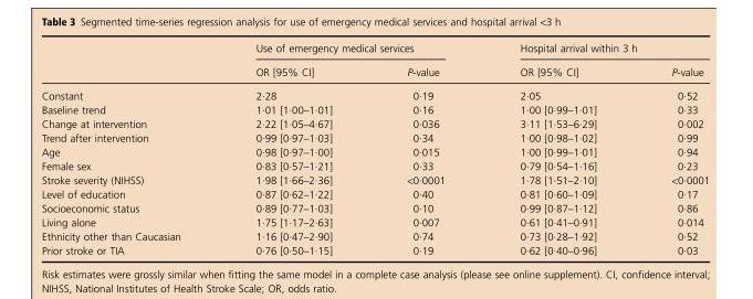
<table><thead><tr><td rowspan="2"></td><td colspan="2">Use of emergency medical services</td><td colspan="2">Hospital arrival within 3 h</td></tr><tr><td>OR [95% CI]</td><td>P-value</td><td>OR [95% CI]</td><td>P-value</td></tr></thead><tbody><tr><td>Constant</td><td>2·28</td><td>0·19</td><td>2·05</td><td>0·52</td></tr><tr><td>Baseline trend</td><td>1·01 [1·00–1·01]</td><td>0·16</td><td>1·00 [0·99–1·01]</td><td>0·33</td></tr><tr><td>Change at intervention</td><td>2·22 [1·05–4·67]</td><td>0·036</td><td>3·11 [1·53–6·29]</td><td>0·002</td></tr><tr><td>Trend after intervention</td><td>0·99 [0·97–1·03]</td><td>0·34</td><td>1·00 [0·98–1·02]</td><td>0·99</td></tr><tr><td>Age</td><td>0·98 [0·97–1·00]</td><td>0·015</td><td>1·00 [0·99–1·01]</td><td>0·94</td></tr><tr><td>Female sex</td><td>0·83 [0·57–1·21]</td><td>0·33</td><td>0·79 [0·54–1·16]</td><td>0·23</td></tr><tr><td>Stroke severity (NIHSS)</td><td>1·98 [1·66–2·36]</td><td>&lt;0·0001</td><td>1·78 [1·51–2·10]</td><td>&lt;0·0001</td></tr><tr><td>Level of education</td><td>0·87 [0·62–1·22]</td><td>0·40</td><td>0·81 [0·60–1·09]</td><td>0·17</td></tr><tr><td>Socioeconomic status</td><td>0·89 [0·77–1·03]</td><td>0·10</td><td>0·99 [0·87–1·12]</td><td>0·86</td></tr><tr><td>Living alone</td><td>1·75 [1·17–2·63]</td><td>0·007</td><td>0·61 [0·41–0·91]</td><td>0·014</td></tr><tr><td>Ethnicity other than Caucasian</td><td>1·16 [0·47–2·90]</td><td>0·74</td><td>0·73 [0·28–1·92]</td><td>0·52</td></tr><tr><td>Prior stroke or TIA</td><td>0·76 [0·50–1·15]</td><td>0·19</td><td>0·62 [0·40–0·96]</td><td>0·03</td></tr></tbody></table>